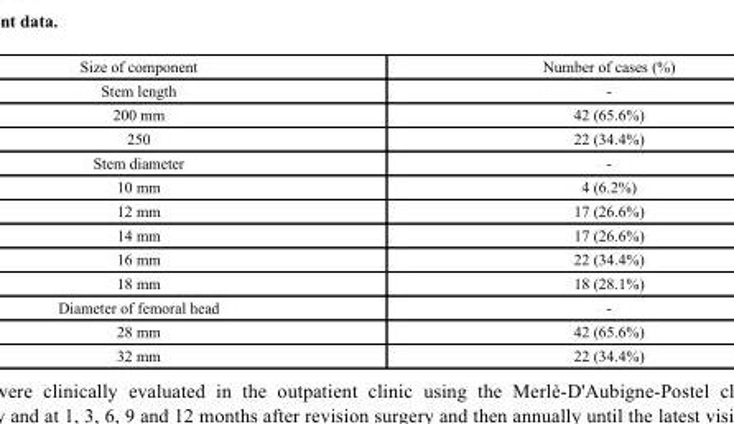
<table><tbody><tr><td>Size of component</td><td>Number of cases (%)</td></tr><tr><td>Stem length</td><td>-</td></tr><tr><td>200 mm</td><td>42 (65.6%)</td></tr><tr><td>250</td><td>22 (34.4%)</td></tr><tr><td>Stem diameter</td><td>-</td></tr><tr><td>10 mm</td><td>4 (6.2%)</td></tr><tr><td>12 mm</td><td>17 (26.6%)</td></tr><tr><td>14 mm</td><td>17 (26.6%)</td></tr><tr><td>16 mm</td><td>22 (34.4%)</td></tr><tr><td>18 mm</td><td>18 (28.1%)</td></tr><tr><td>Diameter of femoral head</td><td>-</td></tr><tr><td>28 mm</td><td>42 (65.6%)</td></tr><tr><td>32 mm</td><td>22 (34.4%)</td></tr></tbody></table>